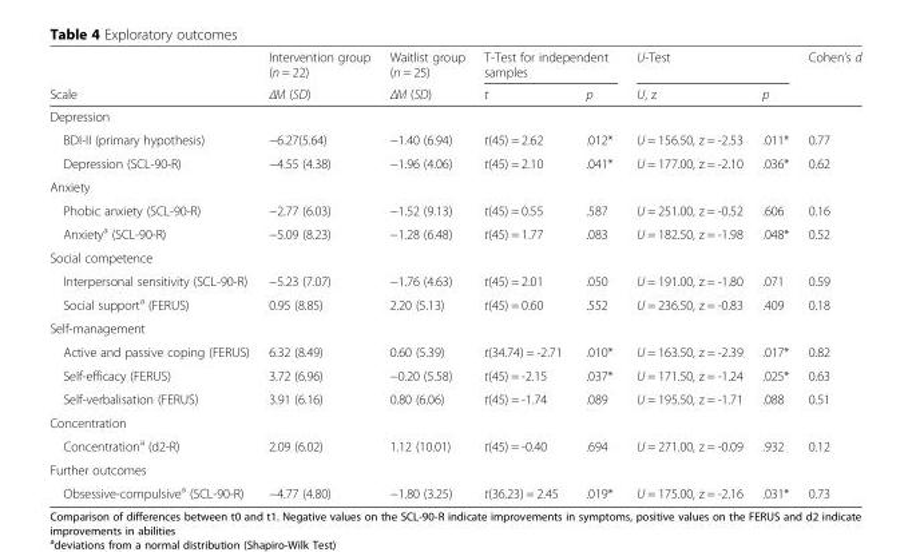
<table><thead><tr><td rowspan="2">Scale</td><td rowspan="2">Intervention group (n = 22) ΔM (SD)</td><td rowspan="2">Waitlist group (n = 25) ΔM (SD)</td><td colspan="2">T-Test for independent samples</td><td colspan="2">U-Test</td><td rowspan="2">Cohen’s d</td></tr><tr><td>t</td><td>p</td><td>U, z</td><td>p</td></tr></thead><tbody><tr><td colspan="8">Depression</td></tr><tr><td>BDI-II (primary hypothesis)</td><td>−6.27(5.64)</td><td>−1.40 (6.94)</td><td>t(45) = 2.62</td><td>.012*</td><td>U = 156.50, z = -2.53</td><td>.011*</td><td>0.77</td></tr><tr><td>Depression (SCL-90-R)</td><td>−4.55 (4.38)</td><td>−1.96 (4.06)</td><td>t(45) = 2.10</td><td>.041*</td><td>U = 177.00, z = -2.10</td><td>.036*</td><td>0.62</td></tr><tr><td colspan="8">Anxiety</td></tr><tr><td>Phobic anxiety (SCL-90-R)</td><td>−2.77 (6.03)</td><td>−1.52 (9.13)</td><td>t(45) = 0.55</td><td>.587</td><td>U = 251.00, z = -0.52</td><td>.606</td><td>0.16</td></tr><tr><td>Anxiety<sup>a</sup> (SCL-90-R)</td><td>−5.09 (8.23)</td><td>−1.28 (6.48)</td><td>t(45) = 1.77</td><td>.083</td><td>U = 182.50, z = -1.98</td><td>.048*</td><td>0.52</td></tr><tr><td colspan="8">Social competence</td></tr><tr><td>Interpersonal sensitivity (SCL-90-R)</td><td>−5.23 (7.07)</td><td>−1.76 (4.63)</td><td>t(45) = 2.01</td><td>.050</td><td>U = 191.00, z = -1.80</td><td>.071</td><td>0.59</td></tr><tr><td>Social support<sup>a</sup> (FERUS)</td><td>0.95 (8.85)</td><td>2.20 (5.13)</td><td>t(45) = 0.60</td><td>.552</td><td>U = 236.50, z = -0.83</td><td>.409</td><td>0.18</td></tr><tr><td colspan="8">Self-management</td></tr><tr><td>Active and passive coping (FERUS)</td><td>6.32 (8.49)</td><td>0.60 (5.39)</td><td>t(34.74) = -2.71</td><td>.010*</td><td>U = 163.50, z = -2.39</td><td>.017*</td><td>0.82</td></tr><tr><td>Self-efficacy (FERUS)</td><td>3.72 (6.96)</td><td>−0.20 (5.58)</td><td>t(45) = -2.15</td><td>.037*</td><td>U = 171.50, z = -1.24</td><td>.025*</td><td>0.63</td></tr><tr><td>Self-verbalisation (FERUS)</td><td>3.91 (6.16)</td><td>0.80 (6.06)</td><td>t(45) = -1.74</td><td>.089</td><td>U = 195.50, z = -1.71</td><td>.088</td><td>0.51</td></tr><tr><td colspan="8">Concentration</td></tr><tr><td>Concentration<sup>a</sup> (d2-R)</td><td>2.09 (6.02)</td><td>1.12 (10.01)</td><td>t(45) = -0.40</td><td>.694</td><td>U = 271.00, z = -0.09</td><td>.932</td><td>0.12</td></tr><tr><td colspan="8">Further outcomes</td></tr><tr><td>Obsessive-compulsive<sup>a</sup> (SCL-90-R)</td><td>−4.77 (4.80)</td><td>−1.80 (3.25)</td><td>t(36.23) = 2.45</td><td>.019*</td><td>U = 175.00, z = -2.16</td><td>.031*</td><td>0.73</td></tr></tbody></table>